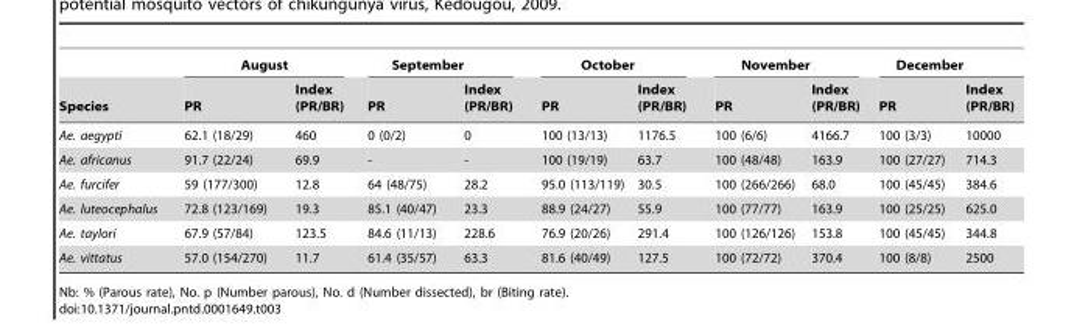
<table><thead><tr><td rowspan="2">Species</td><td rowspan="2">August PR</td><td colspan="2">September</td><td colspan="2">October</td><td colspan="2">November</td><td colspan="2">December</td><td rowspan="2">Index (PR/BR)</td></tr><tr><td>Index (PR/BR)</td><td>PR</td><td>Index (PR/BR)</td><td>PR</td><td>Index (PR/BR)</td><td>PR</td><td>Index (PR/BR)</td><td>PR</td></tr></thead><tbody><tr><td>Ae. aegypti</td><td>62.1 (18/29)</td><td>460</td><td>0 (0/2)</td><td>0</td><td>100 (13/13)</td><td>1176.5</td><td>100 (6/6)</td><td>4166.7</td><td>100 (3/3)</td><td>10000</td></tr><tr><td>Ae. africanus</td><td>91.7 (22/24)</td><td>69.9</td><td>-</td><td>-</td><td>100 (19/19)</td><td>63.7</td><td>100 (48/48)</td><td>163.9</td><td>100 (27/27)</td><td>714.3</td></tr><tr><td>Ae. furcifer</td><td>59 (177/300)</td><td>12.8</td><td>64 (48/75)</td><td>28.2</td><td>95.0 (113/119)</td><td>30.5</td><td>100 (266/266)</td><td>68.0</td><td>100 (45/45)</td><td>384.6</td></tr><tr><td>Ae. luteocephalus</td><td>72.8 (123/169)</td><td>19.3</td><td>85.1 (40/47)</td><td>23.3</td><td>88.9 (24/27)</td><td>55.9</td><td>100 (77/77)</td><td>163.9</td><td>100 (25/25)</td><td>625.0</td></tr><tr><td>Ae. taylori</td><td>67.9 (57/84)</td><td>123.5</td><td>84.6 (11/13)</td><td>228.6</td><td>76.9 (20/26)</td><td>291.4</td><td>100 (126/126)</td><td>153.8</td><td>100 (45/45)</td><td>344.8</td></tr><tr><td>Ae. vittatus</td><td>57.0 (154/270)</td><td>11.7</td><td>61.4 (35/57)</td><td>63.3</td><td>81.6 (40/49)</td><td>127.5</td><td>100 (72/72)</td><td>370.4</td><td>100 (8/8)</td><td>2500</td></tr></tbody></table>